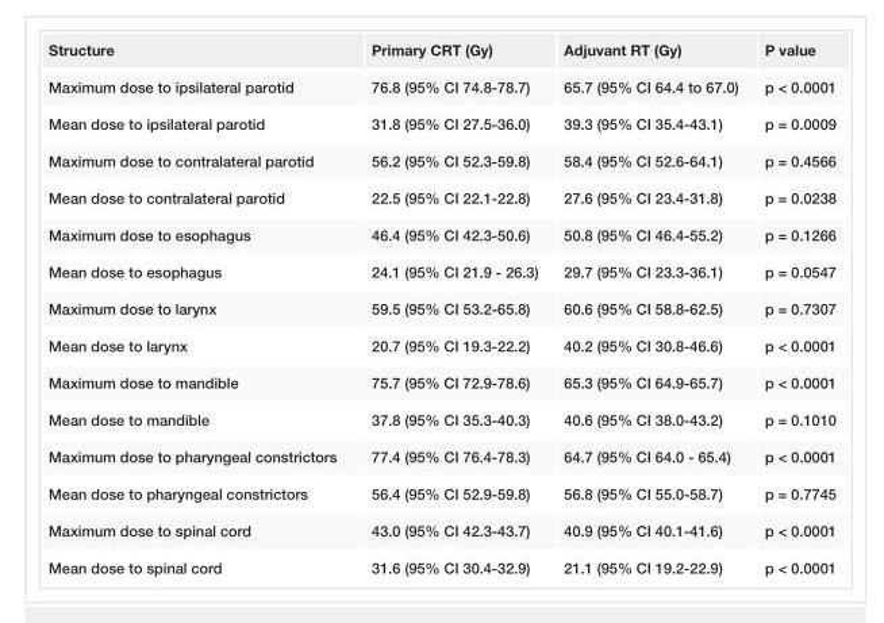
<table><tbody><tr><td>Structure</td><td>Primary CRT (Gy)</td><td>Adjuvant RT (Gy)</td><td>P value</td></tr><tr><td>Maximum dose to ipsilateral parotid</td><td>76.8 (95% CI 74.8-78.7)</td><td>65.7 (95% CI 64.4 to 67.0)</td><td>p &lt; 0.0001</td></tr><tr><td>Mean dose to ipsilateral parotid</td><td>31.8 (95% CI 27.5-36.0)</td><td>39.3 (95% CI 35.4-43.1)</td><td>p = 0.0009</td></tr><tr><td>Maximum dose to contralateral parotid</td><td>56.2 (95% CI 52.3-59.8)</td><td>58.4 (95% CI 52.6-64.1)</td><td>p = 0.4566</td></tr><tr><td>Mean dose to contralateral parotid</td><td>22.5 (95% CI 22.1-22.8)</td><td>27.6 (95% CI 23.4-31.8)</td><td>p = 0.0238</td></tr><tr><td>Maximum dose to esophagus</td><td>46.4 (95% CI 42.3-50.6)</td><td>50.8 (95% CI 46.4-55.2)</td><td>p = 0.1266</td></tr><tr><td>Mean dose to esophagus</td><td>24.1 (95% CI 21.9 - 26.3)</td><td>29.7 (95% CI 23.3-36.1)</td><td>p = 0.0547</td></tr><tr><td>Maximum dose to larynx</td><td>59.5 (95% CI 53.2-65.8)</td><td>60.6 (95% CI 58.8-62.5)</td><td>p = 0.7307</td></tr><tr><td>Mean dose to larynx</td><td>20.7 (95% CI 19.3-22.2)</td><td>40.2 (95% CI 30.8-46.6)</td><td>p &lt; 0.0001</td></tr><tr><td>Maximum dose to mandible</td><td>75.7 (95% CI 72.9-78.6)</td><td>65.3 (95% CI 64.9-65.7)</td><td>p &lt; 0.0001</td></tr><tr><td>Mean dose to mandible</td><td>37.8 (95% CI 35.3-40.3)</td><td>40.6 (95% CI 38.0-43.2)</td><td>p = 0.1010</td></tr><tr><td>Maximum dose to pharyngeal constrictors</td><td>77.4 (95% CI 76.4-78.3)</td><td>64.7 (95% CI 64.0 - 65.4)</td><td>p &lt; 0.0001</td></tr><tr><td>Mean dose to pharyngeal constrictors</td><td>56.4 (95% CI 52.9-59.8)</td><td>56.8 (95% CI 55.0-58.7)</td><td>p = 0.7745</td></tr><tr><td>Maximum dose to spinal cord</td><td>43.0 (95% CI 42.3-43.7)</td><td>40.9 (95% CI 40.1-41.6)</td><td>p &lt; 0.0001</td></tr><tr><td>Mean dose to spinal cord</td><td>31.6 (95% CI 30.4-32.9)</td><td>21.1 (95% CI 19.2-22.9)</td><td>p &lt; 0.0001</td></tr></tbody></table>